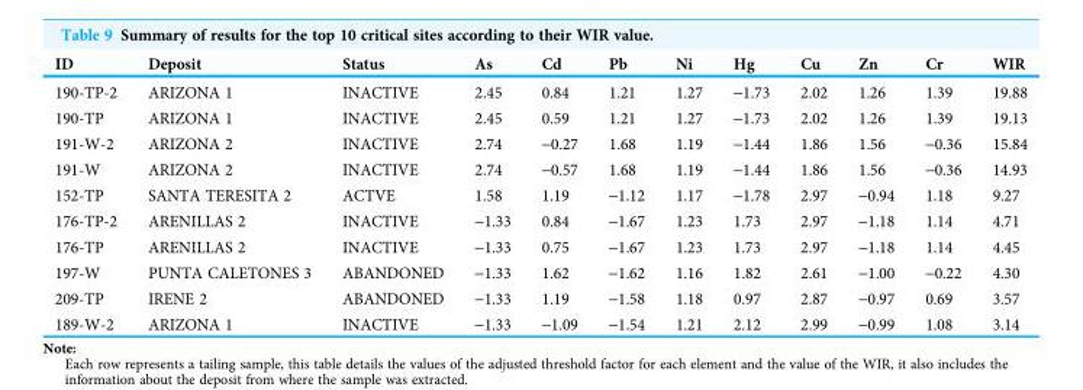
<table><thead><tr><td>ID</td><td>Deposit</td><td>Status</td><td>As</td><td>Cd</td><td>Pb</td><td>Ni</td><td>Hg</td><td>Cu</td><td>Zn</td><td>Cr</td><td>WIR</td></tr></thead><tbody><tr><td>190-TP-2</td><td>ARIZONA 1</td><td>INACTIVE</td><td>2.45</td><td>0.84</td><td>1.21</td><td>1.27</td><td>-1.73</td><td>2.02</td><td>1.26</td><td>1.39</td><td>19.88</td></tr><tr><td>190-TP</td><td>ARIZONA 1</td><td>INACTIVE</td><td>2.45</td><td>0.59</td><td>1.21</td><td>1.27</td><td>-1.73</td><td>2.02</td><td>1.26</td><td>1.39</td><td>19.13</td></tr><tr><td>191-W-2</td><td>ARIZONA 2</td><td>INACTIVE</td><td>2.74</td><td>-0.27</td><td>1.68</td><td>1.19</td><td>-1.44</td><td>1.86</td><td>1.56</td><td>-0.36</td><td>15.84</td></tr><tr><td>191-W</td><td>ARIZONA 2</td><td>INACTIVE</td><td>2.74</td><td>-0.57</td><td>1.68</td><td>1.19</td><td>-1.44</td><td>1.86</td><td>1.56</td><td>-0.36</td><td>14.93</td></tr><tr><td>152-TP</td><td>SANTA TERESITA 2</td><td>ACTVE</td><td>1.58</td><td>1.19</td><td>-1.12</td><td>1.17</td><td>-1.78</td><td>2.97</td><td>-0.94</td><td>1.18</td><td>9.27</td></tr><tr><td>176-TP-2</td><td>ARENILLAS 2</td><td>INACTIVE</td><td>-1.33</td><td>0.84</td><td>-1.67</td><td>1.23</td><td>1.73</td><td>2.97</td><td>-1.18</td><td>1.14</td><td>4.71</td></tr><tr><td>176-TP</td><td>ARENILLAS 2</td><td>INACTIVE</td><td>-1.33</td><td>0.75</td><td>-1.67</td><td>1.23</td><td>1.73</td><td>2.97</td><td>-1.18</td><td>1.14</td><td>4.45</td></tr><tr><td>197-W</td><td>PUNTA CALETONES 3</td><td>ABANDONED</td><td>-1.33</td><td>1.62</td><td>-1.62</td><td>1.16</td><td>1.82</td><td>2.61</td><td>-1.00</td><td>-0.22</td><td>4.30</td></tr><tr><td>209-TP</td><td>IRENE 2</td><td>ABANDONED</td><td>-1.33</td><td>1.19</td><td>-1.58</td><td>1.18</td><td>0.97</td><td>2.87</td><td>-0.97</td><td>0.69</td><td>3.57</td></tr><tr><td>189-W-2</td><td>ARIZONA 1</td><td>INACTIVE</td><td>-1.33</td><td>-1.09</td><td>-1.54</td><td>1.21</td><td>2.12</td><td>2.99</td><td>-0.99</td><td>1.08</td><td>3.14</td></tr></tbody></table>